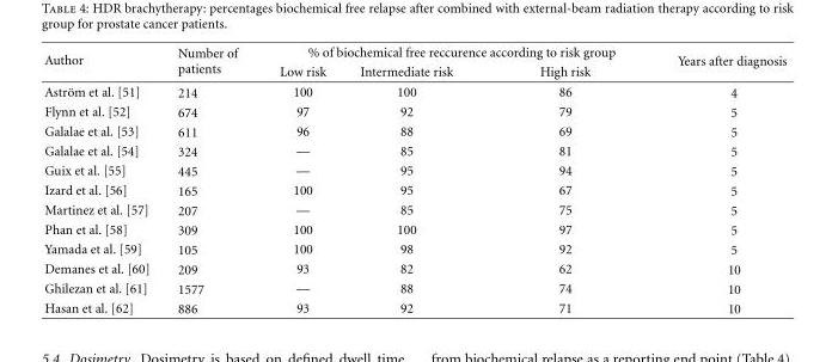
<table><thead><tr><td rowspan="2">Author</td><td rowspan="2">Number of patients</td><td colspan="3">% of biochemical free reccurence according to risk group</td><td rowspan="2">Years after diagnosis</td></tr><tr><td>Low risk</td><td>Intermediate risk</td><td>High risk</td></tr></thead><tbody><tr><td>Astr¨om et al. [51]</td><td>214</td><td>100</td><td>100</td><td>86</td><td>4</td></tr><tr><td>Flynn et al. [52]</td><td>674</td><td>97</td><td>92</td><td>79</td><td>5</td></tr><tr><td>Galalae et al. [53]</td><td>611</td><td>96</td><td>88</td><td>69</td><td>5</td></tr><tr><td>Galalae et al. [54]</td><td>324</td><td>—</td><td>85</td><td>81</td><td>5</td></tr><tr><td>Guix et al. [55]</td><td>445</td><td>—</td><td>95</td><td>94</td><td>5</td></tr><tr><td>Izard et al. [56]</td><td>165</td><td>100</td><td>95</td><td>67</td><td>5</td></tr><tr><td>Martinez et al. [57]</td><td>207</td><td>—</td><td>85</td><td>75</td><td>5</td></tr><tr><td>Phan et al. [58]</td><td>309</td><td>100</td><td>100</td><td>97</td><td>5</td></tr><tr><td>Yamada et al. [59]</td><td>105</td><td>100</td><td>98</td><td>92</td><td>5</td></tr><tr><td>Demanes et al. [60]</td><td>209</td><td>93</td><td>82</td><td>62</td><td>10</td></tr><tr><td>Ghilezan et al. [61]</td><td>1577</td><td>—</td><td>88</td><td>74</td><td>10</td></tr><tr><td>Hasan et al. [62]</td><td>886</td><td>93</td><td>92</td><td>71</td><td>10</td></tr></tbody></table>